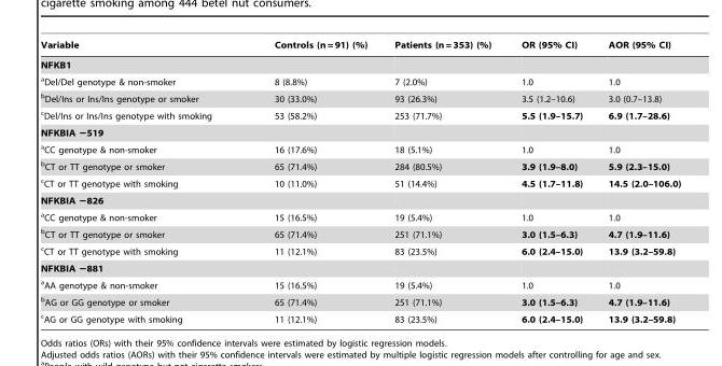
<table><thead><tr><td>Variable</td><td>Controls (n = 91) (%)</td><td>Patients (n = 353) (%)</td><td>OR (95% CI)</td><td>AOR (95% CI)</td></tr></thead><tbody><tr><td colspan="5">NFKB1</td></tr><tr><td>aDel/Del genotype &amp; non-smoker</td><td>8 (8.8%)</td><td>7 (2.0%)</td><td>1.0</td><td>1.0</td></tr><tr><td>bDel/Ins or Ins/Ins genotype or smoker</td><td>30 (33.0%)</td><td>93 (26.3%)</td><td>3.5 (1.2–10.6)</td><td>3.0 (0.7–13.8)</td></tr><tr><td>cDel/Ins or Ins/Ins genotype with smoking</td><td>53 (58.2%)</td><td>253 (71.7%)</td><td>5.5 (1.9–15.7)</td><td>6.9 (1.7–28.6)</td></tr><tr><td colspan="5">NFKBIA −519</td></tr><tr><td>aCC genotype &amp; non-smoker</td><td>16 (17.6%)</td><td>18 (5.1%)</td><td>1.0</td><td>1.0</td></tr><tr><td>bCT or TT genotype or smoker</td><td>65 (71.4%)</td><td>284 (80.5%)</td><td>3.9 (1.9–8.0)</td><td>5.9 (2.3–15.0)</td></tr><tr><td>cCT or TT genotype with smoking</td><td>10 (11.0%)</td><td>51 (14.4%)</td><td>4.5 (1.7–11.8)</td><td>14.5 (2.0–106.0)</td></tr><tr><td colspan="5">NFKBIA −826</td></tr><tr><td>aCC genotype &amp; non-smoker</td><td>15 (16.5%)</td><td>19 (5.4%)</td><td>1.0</td><td>1.0</td></tr><tr><td>bCT or TT genotype or smoker</td><td>65 (71.4%)</td><td>251 (71.1%)</td><td>3.0 (1.5–6.3)</td><td>4.7 (1.9–11.6)</td></tr><tr><td>cCT or TT genotype with smoking</td><td>11 (12.1%)</td><td>83 (23.5%)</td><td>6.0 (2.4–15.0)</td><td>13.9 (3.2–59.8)</td></tr><tr><td colspan="5">NFKBIA −881</td></tr><tr><td>aAA genotype &amp; non-smoker</td><td>15 (16.5%)</td><td>19 (5.4%)</td><td>1.0</td><td>1.0</td></tr><tr><td>bAG or GG genotype or smoker</td><td>65 (71.4%)</td><td>251 (71.1%)</td><td>3.0 (1.5–6.3)</td><td>4.7 (1.9–11.6)</td></tr><tr><td>cAG or GG genotype with smoking</td><td>11 (12.1%)</td><td>83 (23.5%)</td><td>6.0 (2.4–15.0)</td><td>13.9 (3.2–59.8)</td></tr></tbody></table>